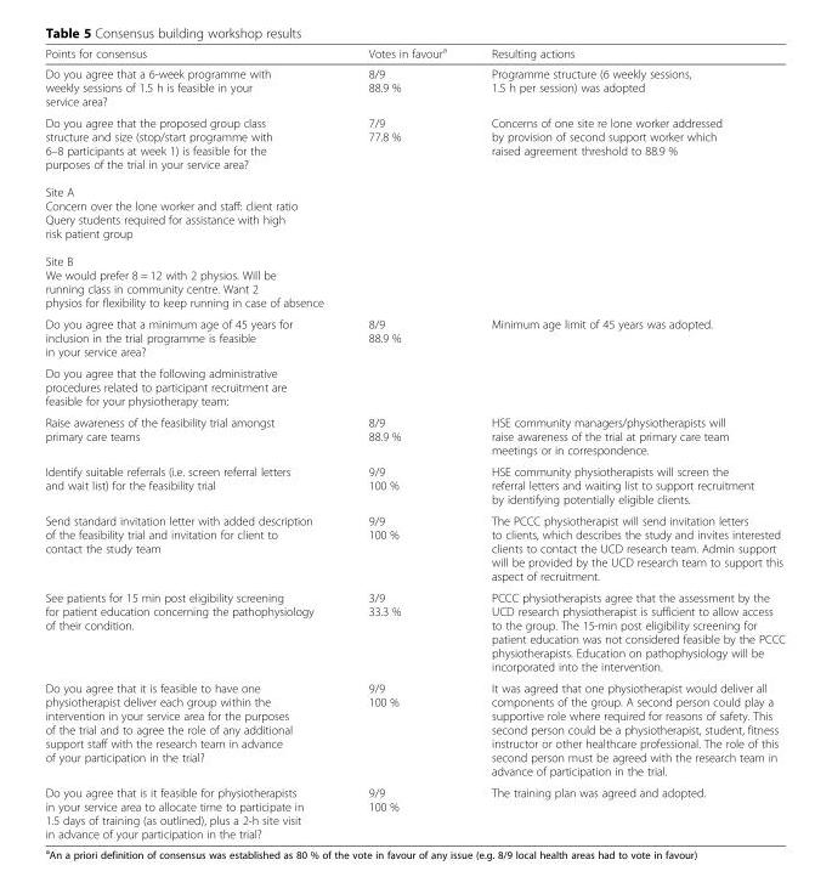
<table><thead><tr><td>Points for consensus</td><td>Votes in favour<sup>a</sup></td><td>Resulting actions</td></tr></thead><tbody><tr><td>Do you agree that a 6-week programme with weekly sessions of 1.5 h is feasible in your service area?</td><td>8/9 88.9 %</td><td>Programme structure (6 weekly sessions, 1.5 h per session) was adopted</td></tr><tr><td>Do you agree that the proposed group class structure and size (stop/start programme with 6–8 participants at week 1) is feasible for the purposes of the trial in your service area? Site A Concern over the lone worker and staff: client ratio Query students required for assistance with high risk patient group Site B We would prefer 8 = 12 with 2 physios. Will be running class in community centre. Want 2 physios for flexibility to keep running in case of absence</td><td>7/9 77.8 %</td><td>Concerns of one site re lone worker addressed by provision of second support worker which raised agreement threshold to 88.9 %</td></tr><tr><td>Do you agree that a minimum age of 45 years for inclusion in the trial programme is feasible in your service area?</td><td>8/9 88.9 %</td><td>Minimum age limit of 45 years was adopted.</td></tr><tr><td colspan="3">Do you agree that the following administrative procedures related to participant recruitment are feasible for your physiotherapy team:</td></tr><tr><td>Raise awareness of the feasibility trial amongst primary care teams</td><td>8/9 88.9 %</td><td>HSE community managers/physiotherapists will raise awareness of the trial at primary care team meetings or in correspondence.</td></tr><tr><td>Identify suitable referrals (i.e. screen referral letters and wait list) for the feasibility trial</td><td>9/9 100 %</td><td>HSE community physiotherapists will screen the referral letters and waiting list to support recruitment by identifying potentially eligible clients.</td></tr><tr><td>Send standard invitation letter with added description of the feasibility trial and invitation for client to contact the study team</td><td>9/9 100 %</td><td>The PCCC physiotherapist will send invitation letters to clients, which describes the study and invites interested clients to contact the UCD research team. Admin support will be provided by the UCD research team to support this aspect of recruitment.</td></tr><tr><td>See patients for 15 min post eligibility screening for patient education concerning the pathophysiology of their condition.</td><td>3/9 33.3 %</td><td>PCCC physiotherapists agree that the assessment by the UCD research physiotherapist is sufficient to allow access to the group. The 15-min post eligibility screening for patient education was not considered feasible by the PCCC physiotherapists. Education on pathophysiology will be incorporated into the intervention.</td></tr><tr><td>Do you agree that it is feasible to have one physiotherapist deliver each group within the intervention in your service area for the purposes of the trial and to agree the role of any additional support staff with the research team in advance of your participation in the trial?</td><td>9/9 100 %</td><td>It was agreed that one physiotherapist would deliver all components of the group. A second person could play a supportive role where required for reasons of safety. This second person could be a physiotherapist, student, fitness instructor or other healthcare professional. The role of this second person must be agreed with the research team in advance of participation in the trial.</td></tr><tr><td>Do you agree that is it feasible for physiotherapists in your service area to allocate time to participate in 1.5 days of training (as outlined), plus a 2-h site visit in advance of your participation in the trial?</td><td>9/9 100 %</td><td>The training plan was agreed and adopted.</td></tr></tbody></table>